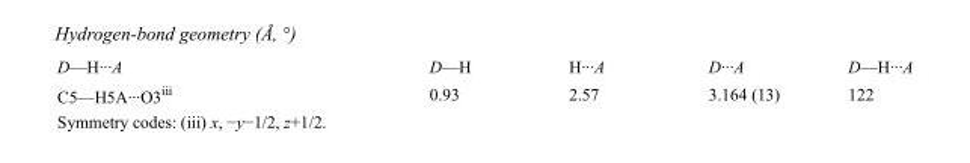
<table><tbody><tr><td>D—H···A</td><td>D—H</td><td>H···A</td><td>D···A</td><td>D—H···A</td></tr><tr><td>C5—H5A···O3<sup>iii</sup></td><td>0.93</td><td>2.57</td><td>3.164 (13)</td><td>122</td></tr></tbody></table>